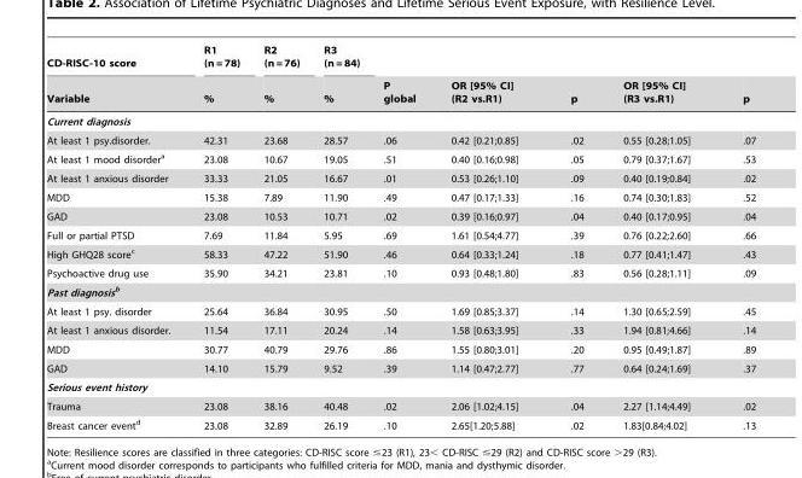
<table><thead><tr><td rowspan="2">CD-RISC-10 score Variable</td><td rowspan="2">R1 (n = 78) %</td><td rowspan="2">R2 (n = 76) %</td><td rowspan="2">R3 (n = 84) %</td><td rowspan="2">P global</td><td rowspan="2">OR [95% CI] (R2 vs.R1)</td><td rowspan="2">p</td><td rowspan="2">OR [95% CI] (R3 vs.R1)</td><td rowspan="2">p</td></tr><tr></tr></thead><tbody><tr><td colspan="9">Current diagnosis</td></tr><tr><td>At least 1 psy.disorder.</td><td>42.31</td><td>23.68</td><td>28.57</td><td>.06</td><td>0.42 [0.21;0.85]</td><td>.02</td><td>0.55 [0.28;1.05]</td><td>.07</td></tr><tr><td>At least 1 mood disorder<sup>a</sup></td><td>23.08</td><td>10.67</td><td>19.05</td><td>.51</td><td>0.40 [0.16;0.98]</td><td>.05</td><td>0.79 [0.37;1.67]</td><td>.53</td></tr><tr><td>At least 1 anxious disorder</td><td>33.33</td><td>21.05</td><td>16.67</td><td>.01</td><td>0.53 [0.26;1.10]</td><td>.09</td><td>0.40 [0.19;0.84]</td><td>.02</td></tr><tr><td>MDD</td><td>15.38</td><td>7.89</td><td>11.90</td><td>.49</td><td>0.47 [0.17;1.33]</td><td>.16</td><td>0.74 [0.30;1.83]</td><td>.52</td></tr><tr><td>GAD</td><td>23.08</td><td>10.53</td><td>10.71</td><td>.02</td><td>0.39 [0.16;0.97]</td><td>.04</td><td>0.40 [0.17;0.95]</td><td>.04</td></tr><tr><td>Full or partial PTSD</td><td>7.69</td><td>11.84</td><td>5.95</td><td>.69</td><td>1.61 [0.54;4.77]</td><td>.39</td><td>0.76 [0.22;2.60]</td><td>.66</td></tr><tr><td>High GHQ28 score<sup>c</sup></td><td>58.33</td><td>47.22</td><td>51.90</td><td>.46</td><td>0.64 [0.33;1.24]</td><td>.18</td><td>0.77 [0.41;1.47]</td><td>.43</td></tr><tr><td>Psychoactive drug use</td><td>35.90</td><td>34.21</td><td>23.81</td><td>.10</td><td>0.93 [0.48;1.80]</td><td>.83</td><td>0.56 [0.28;1.11]</td><td>.09</td></tr><tr><td colspan="9">Past diagnosisb</td></tr><tr><td>At least 1 psy. disorder</td><td>25.64</td><td>36.84</td><td>30.95</td><td>.50</td><td>1.69 [0.85;3.37]</td><td>.14</td><td>1.30 [0.65;2.59]</td><td>.45</td></tr><tr><td>At least 1 anxious disorder.</td><td>11.54</td><td>17.11</td><td>20.24</td><td>.14</td><td>1.58 [0.63;3.95]</td><td>.33</td><td>1.94 [0.81;4.66]</td><td>.14</td></tr><tr><td>MDD</td><td>30.77</td><td>40.79</td><td>29.76</td><td>.86</td><td>1.55 [0.80;3.01]</td><td>.20</td><td>0.95 [0.49;1.87]</td><td>.89</td></tr><tr><td>GAD</td><td>14.10</td><td>15.79</td><td>9.52</td><td>.39</td><td>1.14 [0.47;2.77]</td><td>.77</td><td>0.64 [0.24;1.69]</td><td>.37</td></tr><tr><td colspan="9">Serious event history</td></tr><tr><td>Trauma</td><td>23.08</td><td>38.16</td><td>40.48</td><td>.02</td><td>2.06 [1.02;4.15]</td><td>.04</td><td>2.27 [1.14;4.49]</td><td>.02</td></tr><tr><td>Breast cancer event<sup>d</sup></td><td>23.08</td><td>32.89</td><td>26.19</td><td>.10</td><td>2.65[1.20;5.88]</td><td>.02</td><td>1.83[0.84;4.02]</td><td>.13</td></tr></tbody></table>